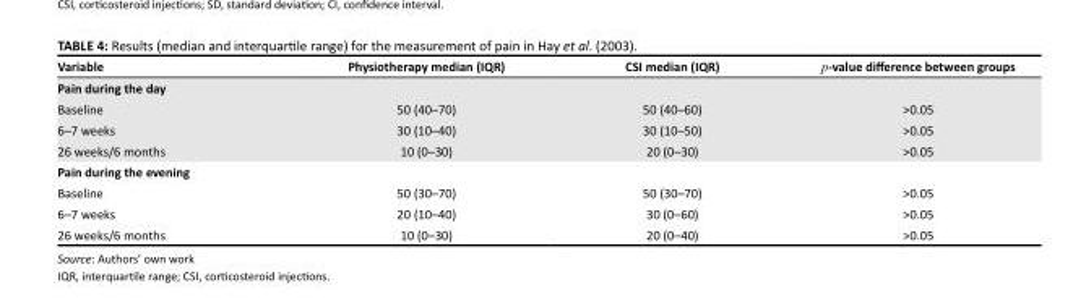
<table><thead><tr><td>Variable</td><td>Physiotherapy median (IQR)</td><td>CSI median (IQR)</td><td>p-value difference between groups</td></tr></thead><tbody><tr><td colspan="4">Pain during the day</td></tr><tr><td>Baseline</td><td>50 (40–70)</td><td>50 (40–60)</td><td>&gt;0.05</td></tr><tr><td>6–7 weeks</td><td>30 (10–40)</td><td>30 (10–50)</td><td>&gt;0.05</td></tr><tr><td>26 weeks/6 months</td><td>10 (0–30)</td><td>20 (0–30)</td><td>&gt;0.05</td></tr><tr><td colspan="4">Pain during the evening</td></tr><tr><td>Baseline</td><td>50 (30–70)</td><td>50 (30–70)</td><td>&gt;0.05</td></tr><tr><td>6–7 weeks</td><td>20 (10–40)</td><td>30 (0–60)</td><td>&gt;0.05</td></tr><tr><td>26 weeks/6 months</td><td>10 (0–30)</td><td>20 (0–40)</td><td>&gt;0.05</td></tr></tbody></table>